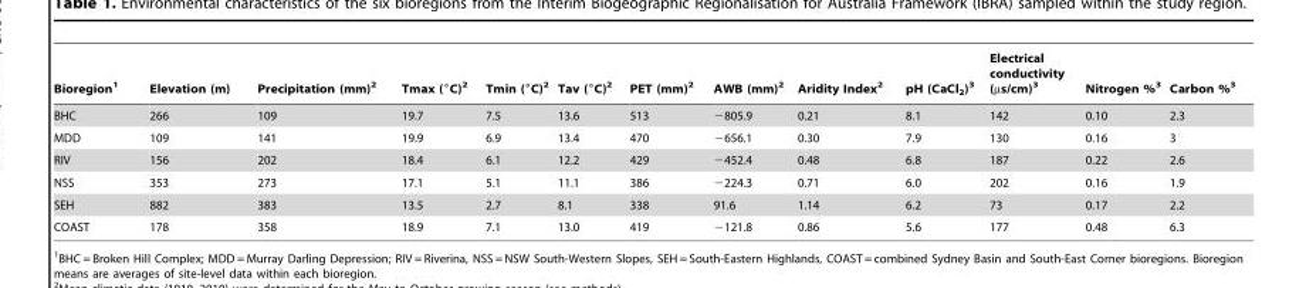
<table><thead><tr><td>Bioregion<sup>1</sup></td><td>Elevation (m)</td><td>Precipitation (mm)<sup>2</sup></td><td>Tmax (°C)<sup>2</sup></td><td>Tmin (°C)<sup>2</sup></td><td>Tav (°C)<sup>2</sup></td><td>PET (mm)<sup>2</sup></td><td>AWB (mm)<sup>2</sup></td><td>Aridity Index<sup>2</sup></td><td>pH (CaCl<sub>2</sub>)<sup>3</sup></td><td>Electrical conductivity (µs/cm)<sup>3</sup></td><td>Nitrogen %<sup>3</sup></td><td>Carbon %<sup>3</sup></td></tr></thead><tbody><tr><td>BHC</td><td>266</td><td>109</td><td>19.7</td><td>7.5</td><td>13.6</td><td>513</td><td>−805.9</td><td>0.21</td><td>8.1</td><td>142</td><td>0.10</td><td>2.3</td></tr><tr><td>MDD</td><td>109</td><td>141</td><td>19.9</td><td>6.9</td><td>13.4</td><td>470</td><td>−656.1</td><td>0.30</td><td>7.9</td><td>130</td><td>0.16</td><td>3</td></tr><tr><td>RIV</td><td>156</td><td>202</td><td>18.4</td><td>6.1</td><td>12.2</td><td>429</td><td>−452.4</td><td>0.48</td><td>6.8</td><td>187</td><td>0.22</td><td>2.6</td></tr><tr><td>NSS</td><td>353</td><td>273</td><td>17.1</td><td>5.1</td><td>11.1</td><td>386</td><td>−224.3</td><td>0.71</td><td>6.0</td><td>202</td><td>0.16</td><td>1.9</td></tr><tr><td>SEH</td><td>882</td><td>383</td><td>13.5</td><td>2.7</td><td>8.1</td><td>338</td><td>91.6</td><td>1.14</td><td>6.2</td><td>73</td><td>0.17</td><td>2.2</td></tr><tr><td>COAST</td><td>178</td><td>358</td><td>18.9</td><td>7.1</td><td>13.0</td><td>419</td><td>−121.8</td><td>0.86</td><td>5.6</td><td>177</td><td>0.48</td><td>6.3</td></tr></tbody></table>